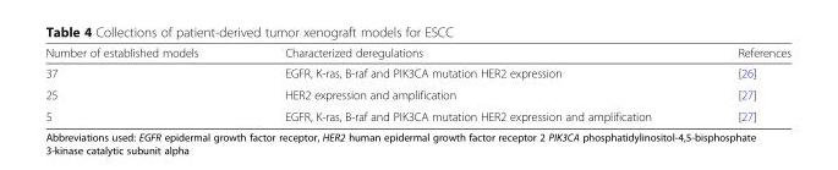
<table><thead><tr><td>Number of established models</td><td>Characterized deregulations</td><td>References</td></tr></thead><tbody><tr><td>37</td><td>EGFR, K-ras, B-raf and PIK3CA mutation HER2 expression</td><td>[26]</td></tr><tr><td>25</td><td>HER2 expression and amplification</td><td>[27]</td></tr><tr><td>5</td><td>EGFR, K-ras, B-raf and PIK3CA mutation HER2 expression and amplification</td><td>[27]</td></tr></tbody></table>